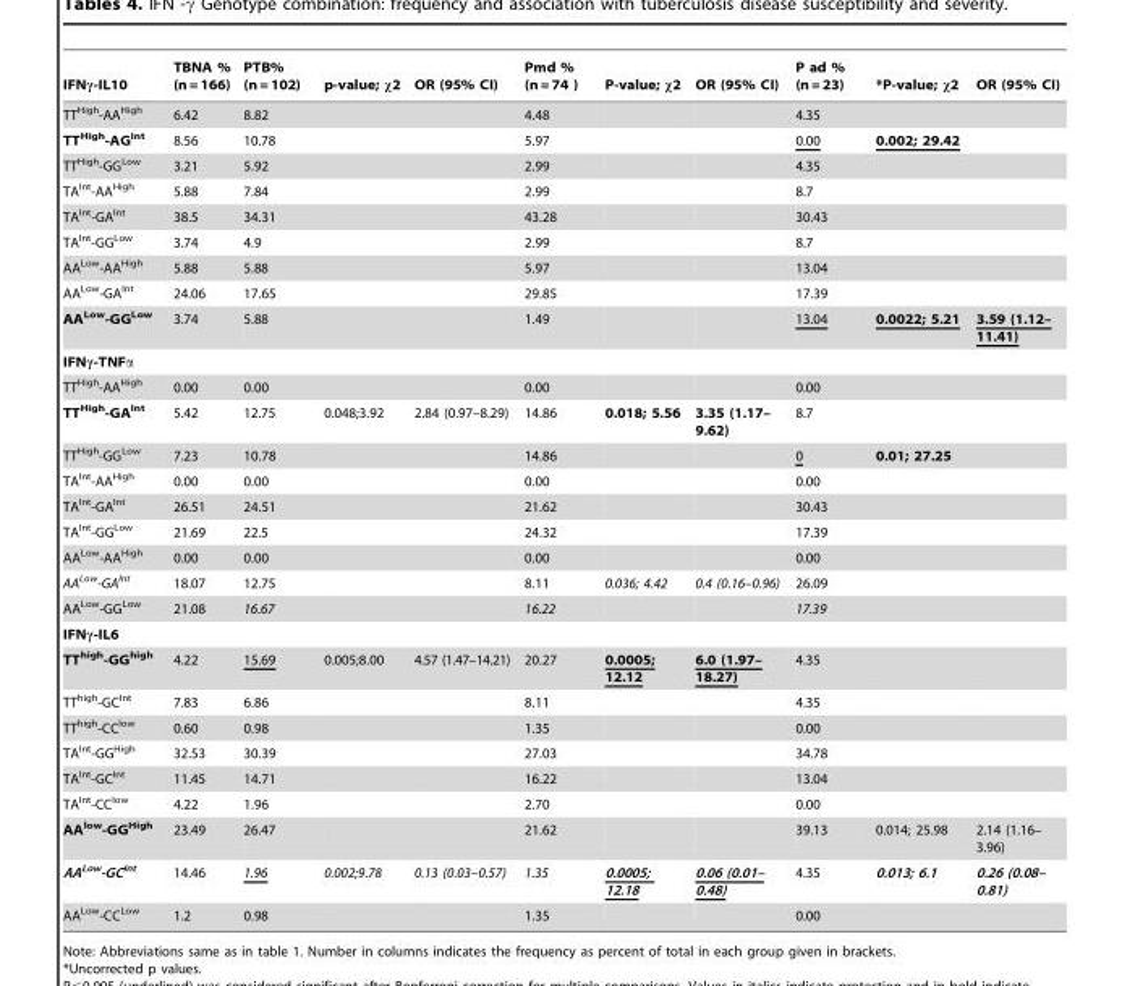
<table><thead><tr><td>IFNγ-IL10</td><td>TBNA % (n = 166)</td><td>PTB% (n = 102)</td><td>p-value; χ2</td><td>OR (95% CI)</td><td>Pmd % (n = 74 )</td><td>P-value; χ2</td><td>OR (95% CI)</td><td>P ad % (n = 23)</td><td>*P-value; χ2</td><td>OR (95% CI)</td></tr></thead><tbody><tr><td>TT<sup>High</sup>-AA<sup>High</sup></td><td>6.42</td><td>8.82</td><td></td><td></td><td>4.48</td><td></td><td></td><td>4.35</td><td></td><td></td></tr><tr><td>TT<sup>High</sup>-AG<sup>Int</sup></td><td>8.56</td><td>10.78</td><td></td><td></td><td>5.97</td><td></td><td></td><td>0.00</td><td>0.002; 29.42</td><td></td></tr><tr><td>TT<sup>High</sup>-GG<sup>Low</sup></td><td>3.21</td><td>5.92</td><td></td><td></td><td>2.99</td><td></td><td></td><td>4.35</td><td></td><td></td></tr><tr><td>TA<sup>Int</sup>-AA<sup>High</sup></td><td>5.88</td><td>7.84</td><td></td><td></td><td>2.99</td><td></td><td></td><td>8.7</td><td></td><td></td></tr><tr><td>TA<sup>Int</sup>-GA<sup>Int</sup></td><td>38.5</td><td>34.31</td><td></td><td></td><td>43.28</td><td></td><td></td><td>30.43</td><td></td><td></td></tr><tr><td>TA<sup>Int</sup>-GG<sup>Low</sup></td><td>3.74</td><td>4.9</td><td></td><td></td><td>2.99</td><td></td><td></td><td>8.7</td><td></td><td></td></tr><tr><td>AA<sup>Low</sup>-AA<sup>High</sup></td><td>5.88</td><td>5.88</td><td></td><td></td><td>5.97</td><td></td><td></td><td>13.04</td><td></td><td></td></tr><tr><td>AA<sup>Low</sup>-GA<sup>Int</sup></td><td>24.06</td><td>17.65</td><td></td><td></td><td>29.85</td><td></td><td></td><td>17.39</td><td></td><td></td></tr><tr><td>AA<sup>Low</sup>-GG<sup>Low</sup></td><td>3.74</td><td>5.88</td><td></td><td></td><td>1.49</td><td></td><td></td><td>13.04</td><td>0.0022; 5.21</td><td>3.59 (1.12– 11.41)</td></tr><tr><td colspan="11">IFNγ-TNFα</td></tr><tr><td>TT<sup>High</sup>-AA<sup>High</sup></td><td>0.00</td><td>0.00</td><td></td><td></td><td>0.00</td><td></td><td></td><td>0.00</td><td></td><td></td></tr><tr><td>TT<sup>High</sup>-GA<sup>Int</sup></td><td>5.42</td><td>12.75</td><td>0.048;3.92</td><td>2.84 (0.97–8.29)</td><td>14.86</td><td>0.018; 5.56</td><td>3.35 (1.17– 9.62)</td><td>8.7</td><td></td><td></td></tr><tr><td>TT<sup>High</sup>-GG<sup>Low</sup></td><td>7.23</td><td>10.78</td><td></td><td></td><td>14.86</td><td></td><td></td><td>0</td><td>0.01; 27.25</td><td></td></tr><tr><td>TA<sup>Int</sup>-AA<sup>High</sup></td><td>0.00</td><td>0.00</td><td></td><td></td><td>0.00</td><td></td><td></td><td>0.00</td><td></td><td></td></tr><tr><td>TA<sup>Int</sup>-GA<sup>Int</sup></td><td>26.51</td><td>24.51</td><td></td><td></td><td>21.62</td><td></td><td></td><td>30.43</td><td></td><td></td></tr><tr><td>TA<sup>Int</sup>-GG<sup>Low</sup></td><td>21.69</td><td>22.5</td><td></td><td></td><td>24.32</td><td></td><td></td><td>17.39</td><td></td><td></td></tr><tr><td>AA<sup>Low</sup>-AA<sup>High</sup></td><td>0.00</td><td>0.00</td><td></td><td></td><td>0.00</td><td></td><td></td><td>0.00</td><td></td><td></td></tr><tr><td>AA<sup>Low</sup>-GA<sup>Int</sup></td><td>18.07</td><td>12.75</td><td></td><td></td><td>8.11</td><td>0.036; 4.42</td><td>0.4 (0.16–0.96)</td><td>26.09</td><td></td><td></td></tr><tr><td>AA<sup>Low</sup>-GG<sup>Low</sup></td><td>21.08</td><td>16.67</td><td></td><td></td><td>16.22</td><td></td><td></td><td>17.39</td><td></td><td></td></tr><tr><td colspan="11">IFNγ-IL6</td></tr><tr><td>TT<sup>high</sup>-GG<sup>high</sup></td><td>4.22</td><td>15.69</td><td>0.005;8.00</td><td>4.57 (1.47–14.21)</td><td>20.27</td><td>0.0005; 12.12</td><td>6.0 (1.97– 18.27)</td><td>4.35</td><td></td><td></td></tr><tr><td>TT<sup>high</sup>-GC<sup>Int</sup></td><td>7.83</td><td>6.86</td><td></td><td></td><td>8.11</td><td></td><td></td><td>4.35</td><td></td><td></td></tr><tr><td>TT<sup>high</sup>-CC<sup>low</sup></td><td>0.60</td><td>0.98</td><td></td><td></td><td>1.35</td><td></td><td></td><td>0.00</td><td></td><td></td></tr><tr><td>TA<sup>Int</sup>-GG<sup>High</sup></td><td>32.53</td><td>30.39</td><td></td><td></td><td>27.03</td><td></td><td></td><td>34.78</td><td></td><td></td></tr><tr><td>TA<sup>Int</sup>-GC<sup>Int</sup></td><td>11.45</td><td>14.71</td><td></td><td></td><td>16.22</td><td></td><td></td><td>13.04</td><td></td><td></td></tr><tr><td>TA<sup>Int</sup>-CC<sup>low</sup></td><td>4.22</td><td>1.96</td><td></td><td></td><td>2.70</td><td></td><td></td><td>0.00</td><td></td><td></td></tr><tr><td>AA<sup>low</sup>-GG<sup>High</sup></td><td>23.49</td><td>26.47</td><td></td><td></td><td>21.62</td><td></td><td></td><td>39.13</td><td>0.014; 25.98</td><td>2.14 (1.16– 3.96)</td></tr><tr><td>AA<sup>Low</sup>-GC<sup>Int</sup></td><td>14.46</td><td>1.96</td><td>0.002;9.78</td><td>0.13 (0.03–0.57)</td><td>1.35</td><td>0.0005; 12.18</td><td>0.06 (0.01– 0.48)</td><td>4.35</td><td>0.013; 6.1</td><td>0.26 (0.08– 0.81)</td></tr><tr><td>AA<sup>Low</sup>-CC<sup>Low</sup></td><td>1.2</td><td>0.98</td><td></td><td></td><td>1.35</td><td></td><td></td><td>0.00</td><td></td><td></td></tr></tbody></table>